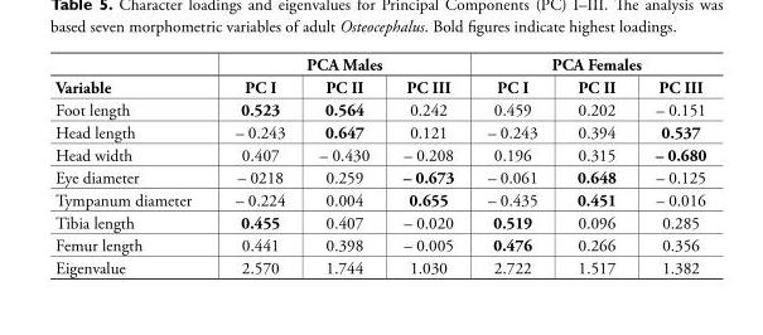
<table><thead><tr><td rowspan="2">Variable</td><td colspan="3">PCA Males</td><td colspan="3">PCA Females</td></tr><tr><td>PC I</td><td>PC II</td><td>PC III</td><td>PC I</td><td>PC II</td><td>PC III</td></tr></thead><tbody><tr><td>Foot length</td><td>0.523</td><td>0.564</td><td>0.242</td><td>0.459</td><td>0.202</td><td>– 0.151</td></tr><tr><td>Head length</td><td>– 0.243</td><td>0.647</td><td>0.121</td><td>– 0.243</td><td>0.394</td><td>0.537</td></tr><tr><td>Head width</td><td>0.407</td><td>– 0.430</td><td>– 0.208</td><td>0.196</td><td>0.315</td><td>– 0.680</td></tr><tr><td>Eye diameter</td><td>– 0218</td><td>0.259</td><td>– 0.673</td><td>– 0.061</td><td>0.648</td><td>– 0.125</td></tr><tr><td>Tympanum diameter</td><td>– 0.224</td><td>0.004</td><td>0.655</td><td>– 0.435</td><td>0.451</td><td>– 0.016</td></tr><tr><td>Tibia length</td><td>0.455</td><td>0.407</td><td>– 0.020</td><td>0.519</td><td>0.096</td><td>0.285</td></tr><tr><td>Femur length</td><td>0.441</td><td>0.398</td><td>– 0.005</td><td>0.476</td><td>0.266</td><td>0.356</td></tr><tr><td>Eigenvalue</td><td>2.570</td><td>1.744</td><td>1.030</td><td>2.722</td><td>1.517</td><td>1.382</td></tr></tbody></table>